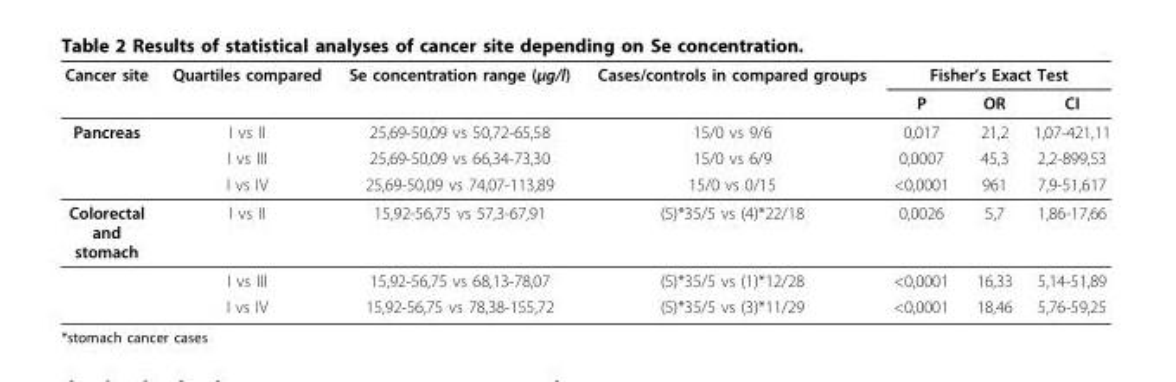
<table><thead><tr><td rowspan="2">Cancer site</td><td rowspan="2">Quartiles compared</td><td rowspan="2">Se concentration range (µg/l)</td><td rowspan="2">Cases/controls in compared groups</td><td colspan="3">Fisher’s Exact Test</td></tr><tr><td>P</td><td>OR</td><td>CI</td></tr></thead><tbody><tr><td rowspan="3">Pancreas</td><td>I vs II</td><td>25,69-50,09 vs 50,72-65,58</td><td>15/0 vs 9/6</td><td>0,017</td><td>21,2</td><td>1,07-421,11</td></tr><tr><td>I vs III</td><td>25,69-50,09 vs 66,34-73,30</td><td>15/0 vs 6/9</td><td>0,0007</td><td>45,3</td><td>2,2-899,53</td></tr><tr><td>I vs IV</td><td>25,69-50,09 vs 74,07-113,89</td><td>15/0 vs 0/15</td><td>&lt;0,0001</td><td>961</td><td>7,9-51,617</td></tr><tr><td rowspan="3">Colorectal and stomach</td><td>I vs II</td><td>15,92-56,75 vs 57,3-67,91</td><td>(5)*35/5 vs (4)*22/18</td><td>0,0026</td><td>5,7</td><td>1,86-17,66</td></tr><tr><td>I vs III</td><td>15,92-56,75 vs 68,13-78,07</td><td>(5)*35/5 vs (1)*12/28</td><td>&lt;0,0001</td><td>16,33</td><td>5,14-51,89</td></tr><tr><td>I vs IV</td><td>15,92-56,75 vs 78,38-155,72</td><td>(5)*35/5 vs (3)*11/29</td><td>&lt;0,0001</td><td>18,46</td><td>5,76-59,25</td></tr></tbody></table>